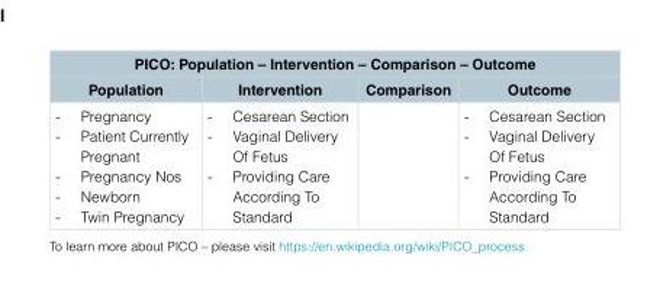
<table><thead><tr><td colspan="4">PICO: Population – Intervention – Comparison – Outcome</td></tr><tr><td>Population</td><td>Intervention</td><td>Comparison</td><td>Outcome</td></tr></thead><tbody><tr><td>- Pregnancy - Patient Currently Pregnant - Pregnancy Nos - Newborn - Twin Pregnancy</td><td>- Cesarean Section - Vaginal Delivery Of Fetus - Providing Care According To Standard</td><td></td><td>- Cesarean Section - Vaginal Delivery Of Fetus - Providing Care According To Standard</td></tr></tbody></table>